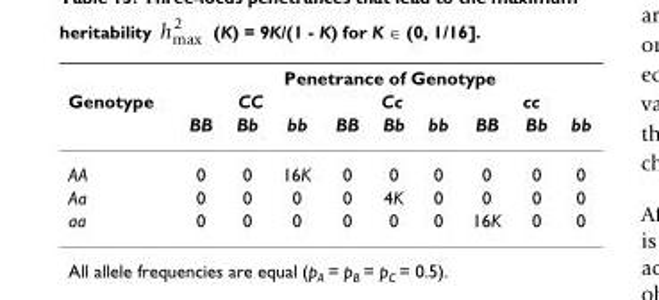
<table><thead><tr><td rowspan="3">Genotype</td><td colspan="9">Penetrance of Genotype</td></tr><tr><td colspan="3">CC</td><td colspan="3">Cc</td><td colspan="3">cc</td></tr><tr><td>BB</td><td>Bb</td><td>bb</td><td>BB</td><td>Bb</td><td>bb</td><td>BB</td><td>Bb</td><td>bb</td></tr></thead><tbody><tr><td>AA</td><td>0</td><td>0</td><td>16K</td><td>0</td><td>0</td><td>0</td><td>0</td><td>0</td><td>0</td></tr><tr><td>Aa</td><td>0</td><td>0</td><td>0</td><td>0</td><td>4K</td><td>0</td><td>0</td><td>0</td><td>0</td></tr><tr><td>aa</td><td>0</td><td>0</td><td>0</td><td>0</td><td>0</td><td>0</td><td>16K</td><td>0</td><td>0</td></tr></tbody></table>